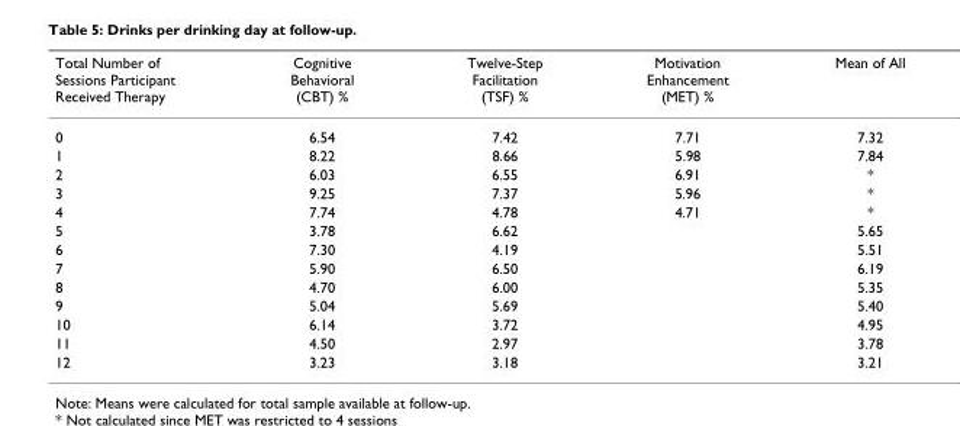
<table><thead><tr><td>Total Number of Sessions Participant Received Therapy</td><td>Cognitive Behavioral (CBT) %</td><td>Twelve-Step Facilitation (TSF) %</td><td>Motivation Enhancement (MET) %</td><td>Mean of All</td></tr></thead><tbody><tr><td>0</td><td>6.54</td><td>7.42</td><td>7.71</td><td>7.32</td></tr><tr><td>1</td><td>8.22</td><td>8.66</td><td>5.98</td><td>7.84</td></tr><tr><td>2</td><td>6.03</td><td>6.55</td><td>6.91</td><td>*</td></tr><tr><td>3</td><td>9.25</td><td>7.37</td><td>5.96</td><td>*</td></tr><tr><td>4</td><td>7.74</td><td>4.78</td><td>4.71</td><td>*</td></tr><tr><td>5</td><td>3.78</td><td>6.62</td><td></td><td>5.65</td></tr><tr><td>6</td><td>7.30</td><td>4.19</td><td></td><td>5.51</td></tr><tr><td>7</td><td>5.90</td><td>6.50</td><td></td><td>6.19</td></tr><tr><td>8</td><td>4.70</td><td>6.00</td><td></td><td>5.35</td></tr><tr><td>9</td><td>5.04</td><td>5.69</td><td></td><td>5.40</td></tr><tr><td>10</td><td>6.14</td><td>3.72</td><td></td><td>4.95</td></tr><tr><td>11</td><td>4.50</td><td>2.97</td><td></td><td>3.78</td></tr><tr><td>12</td><td>3.23</td><td>3.18</td><td></td><td>3.21</td></tr></tbody></table>